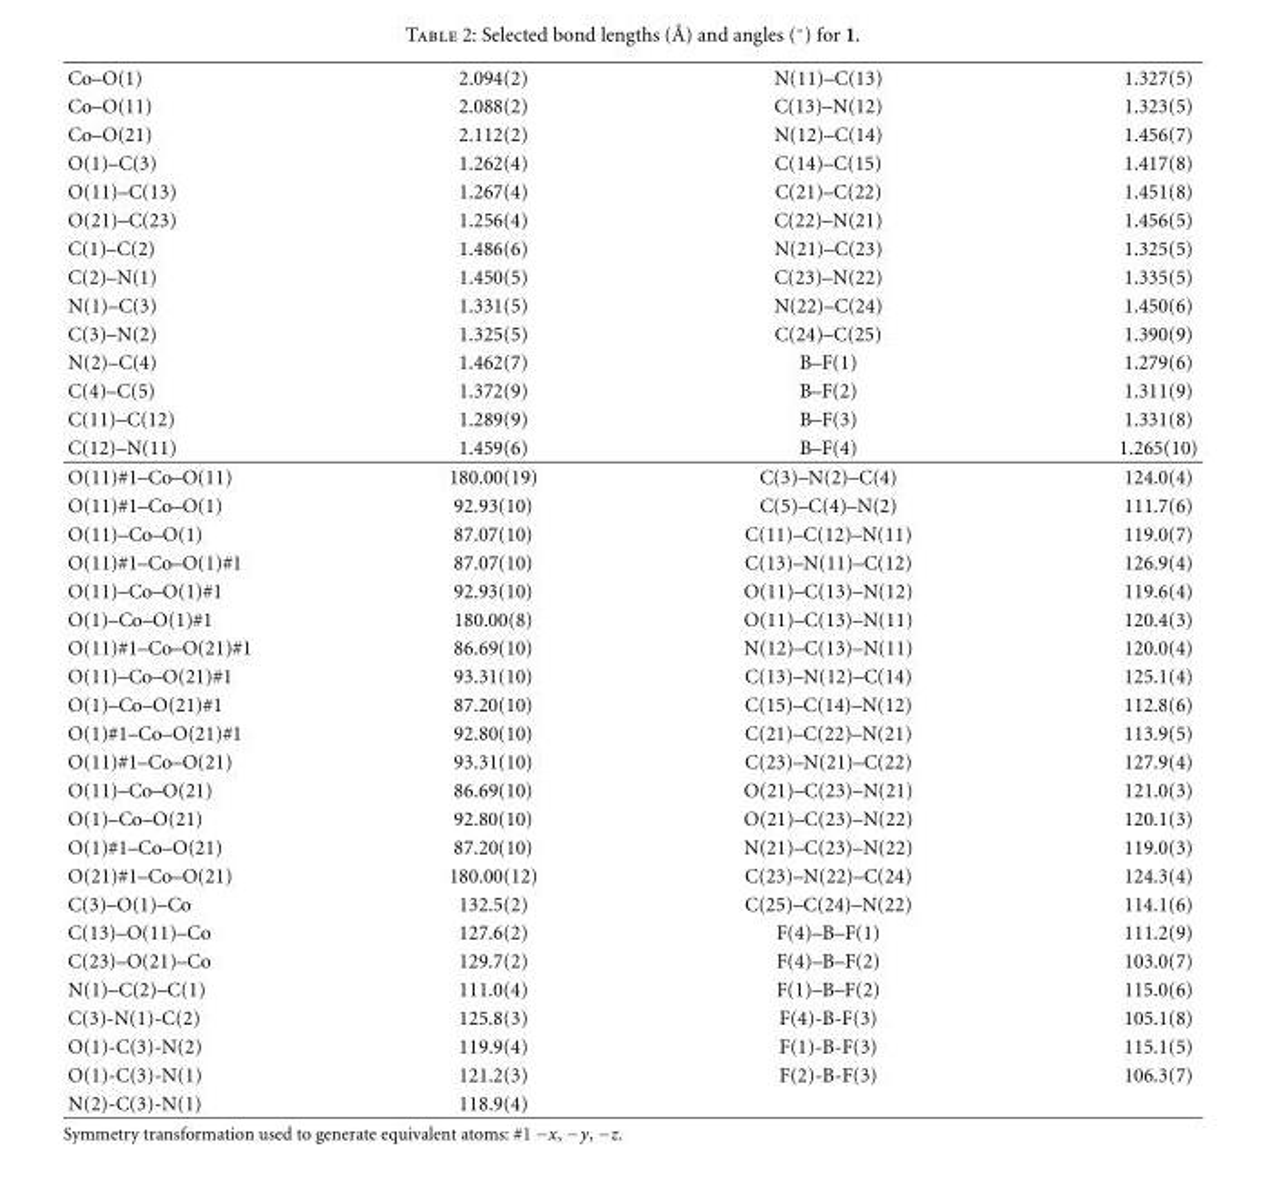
<table><tbody><tr><td>Co–O(1)</td><td>2.094(2)</td><td>N(11)–C(13)</td><td>1.327(5)</td></tr><tr><td>Co–O(11)</td><td>2.088(2)</td><td>C(13)–N(12)</td><td>1.323(5)</td></tr><tr><td>Co–O(21)</td><td>2.112(2)</td><td>N(12)–C(14)</td><td>1.456(7)</td></tr><tr><td>O(1)–C(3)</td><td>1.262(4)</td><td>C(14)–C(15)</td><td>1.417(8)</td></tr><tr><td>O(11)–C(13)</td><td>1.267(4)</td><td>C(21)–C(22)</td><td>1.451(8)</td></tr><tr><td>O(21)–C(23)</td><td>1.256(4)</td><td>C(22)–N(21)</td><td>1.456(5)</td></tr><tr><td>C(1)–C(2)</td><td>1.486(6)</td><td>N(21)–C(23)</td><td>1.325(5)</td></tr><tr><td>C(2)–N(1)</td><td>1.450(5)</td><td>C(23)–N(22)</td><td>1.335(5)</td></tr><tr><td>N(1)–C(3)</td><td>1.331(5)</td><td>N(22)–C(24)</td><td>1.450(6)</td></tr><tr><td>C(3)–N(2)</td><td>1.325(5)</td><td>C(24)–C(25)</td><td>1.390(9)</td></tr><tr><td>N(2)–C(4)</td><td>1.462(7)</td><td>B–F(1)</td><td>1.279(6)</td></tr><tr><td>C(4)–C(5)</td><td>1.372(9)</td><td>B–F(2)</td><td>1.311(9)</td></tr><tr><td>C(11)–C(12)</td><td>1.289(9)</td><td>B–F(3)</td><td>1.331(8)</td></tr><tr><td>C(12)–N(11)</td><td>1.459(6)</td><td>B–F(4)</td><td>1.265(10)</td></tr><tr><td>O(11)#1–Co–O(11)</td><td>180.00(19)</td><td>C(3)–N(2)–C(4)</td><td>124.0(4)</td></tr><tr><td>O(11)#1–Co–O(1)</td><td>92.93(10)</td><td>C(5)–C(4)–N(2)</td><td>111.7(6)</td></tr><tr><td>O(11)–Co–O(1)</td><td>87.07(10)</td><td>C(11)–C(12)–N(11)</td><td>119.0(7)</td></tr><tr><td>O(11)#1–Co–O(1)#1</td><td>87.07(10)</td><td>C(13)–N(11)–C(12)</td><td>126.9(4)</td></tr><tr><td>O(11)–Co–O(1)#1</td><td>92.93(10)</td><td>O(11)–C(13)–N(12)</td><td>119.6(4)</td></tr><tr><td>O(1)–Co–O(1)#1</td><td>180.00(8)</td><td>O(11)–C(13)–N(11)</td><td>120.4(3)</td></tr><tr><td>O(11)#1–Co–O(21)#1</td><td>86.69(10)</td><td>N(12)–C(13)–N(11)</td><td>120.0(4)</td></tr><tr><td>O(11)–Co–O(21)#1</td><td>93.31(10)</td><td>C(13)–N(12)–C(14)</td><td>125.1(4)</td></tr><tr><td>O(1)–Co–O(21)#1</td><td>87.20(10)</td><td>C(15)–C(14)–N(12)</td><td>112.8(6)</td></tr><tr><td>O(1)#1–Co–O(21)#1</td><td>92.80(10)</td><td>C(21)–C(22)–N(21)</td><td>113.9(5)</td></tr><tr><td>O(11)#1–Co–O(21)</td><td>93.31(10)</td><td>C(23)–N(21)–C(22)</td><td>127.9(4)</td></tr><tr><td>O(11)–Co–O(21)</td><td>86.69(10)</td><td>O(21)–C(23)–N(21)</td><td>121.0(3)</td></tr><tr><td>O(1)–Co–O(21)</td><td>92.80(10)</td><td>O(21)–C(23)–N(22)</td><td>120.1(3)</td></tr><tr><td>O(1)#1–Co–O(21)</td><td>87.20(10)</td><td>N(21)–C(23)–N(22)</td><td>119.0(3)</td></tr><tr><td>O(21)#1–Co–O(21)</td><td>180.00(12)</td><td>C(23)–N(22)–C(24)</td><td>124.3(4)</td></tr><tr><td>C(3)–O(1)–Co</td><td>132.5(2)</td><td>C(25)–C(24)–N(22)</td><td>114.1(6)</td></tr><tr><td>C(13)–O(11)–Co</td><td>127.6(2)</td><td>F(4)–B–F(1)</td><td>111.2(9)</td></tr><tr><td>C(23)–O(21)–Co</td><td>129.7(2)</td><td>F(4)–B–F(2)</td><td>103.0(7)</td></tr><tr><td>N(1)–C(2)–C(1)</td><td>111.0(4)</td><td>F(1)–B–F(2)</td><td>115.0(6)</td></tr><tr><td>C(3)-N(1)-C(2)</td><td>125.8(3)</td><td>F(4)-B-F(3)</td><td>105.1(8)</td></tr><tr><td>O(1)-C(3)-N(2)</td><td>119.9(4)</td><td>F(1)-B-F(3)</td><td>115.1(5)</td></tr><tr><td>O(1)-C(3)-N(1)</td><td>121.2(3)</td><td>F(2)-B-F(3)</td><td>106.3(7)</td></tr><tr><td>N(2)-C(3)-N(1)</td><td>118.9(4)</td><td></td><td></td></tr></tbody></table>